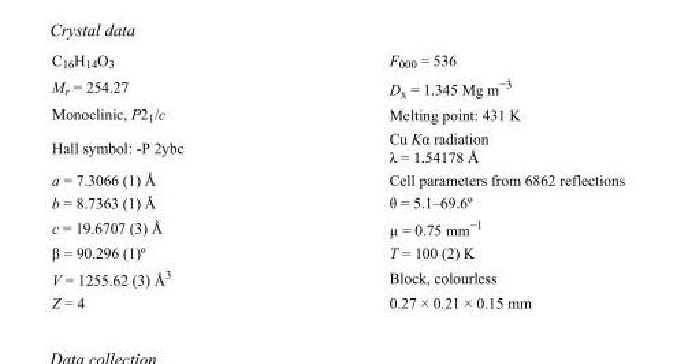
<table><tbody><tr><td>C<sub>16</sub>H<sub>14</sub>O<sub>3</sub></td><td>F<sub>000</sub> = 536</td></tr><tr><td>M<sub>r</sub> = 254.27</td><td>D<sub>x</sub> = 1.345 Mg m<sup>−3</sup></td></tr><tr><td>Monoclinic, P2<sub>1</sub>/c</td><td>Melting point: 431 K</td></tr><tr><td>Hall symbol: -P 2ybc</td><td>Cu Kα radiation λ = 1.54178 Å</td></tr><tr><td>a = 7.3066 (1) Å</td><td>Cell parameters from 6862 reflections</td></tr><tr><td>b = 8.7363 (1) Å</td><td>θ = 5.1–69.6º</td></tr><tr><td>c = 19.6707 (3) Å</td><td>µ = 0.75 mm<sup>−1</sup></td></tr><tr><td>β = 90.296 (1)º</td><td>T = 100 (2) K</td></tr><tr><td>V = 1255.62 (3) Å<sup>3</sup></td><td>Block, colourless</td></tr><tr><td>Z = 4</td><td>0.27 × 0.21 × 0.15 mm</td></tr></tbody></table>